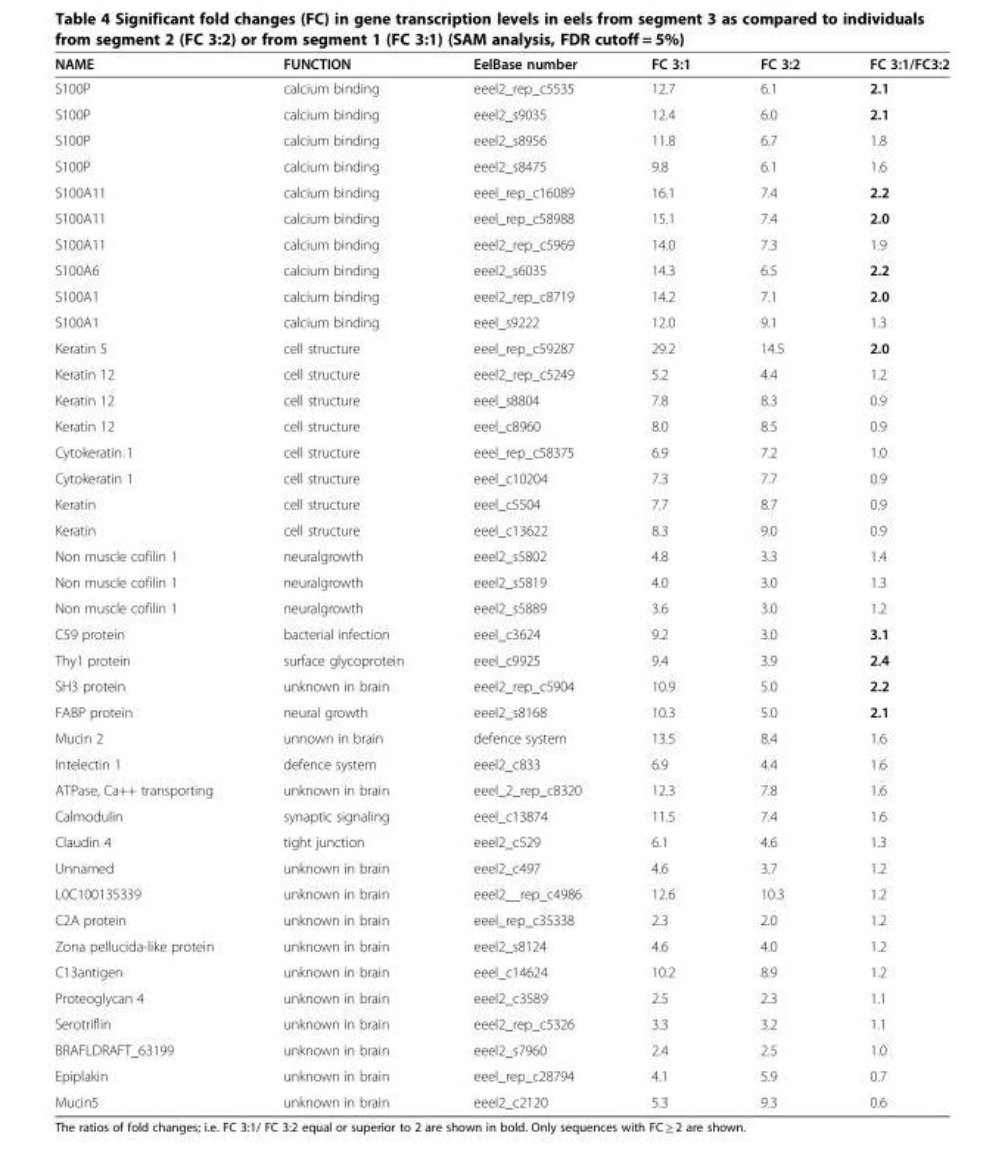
<table><thead><tr><td>NAME</td><td>FUNCTION</td><td>EelBase number</td><td>FC 3:1</td><td>FC 3:2</td><td>FC 3:1/FC3:2</td></tr></thead><tbody><tr><td>S100P</td><td>calcium binding</td><td>eeel2_rep_c5535</td><td>12.7</td><td>6.1</td><td>2.1</td></tr><tr><td>S100P</td><td>calcium binding</td><td>eeel2_s9035</td><td>12.4</td><td>6.0</td><td>2.1</td></tr><tr><td>S100P</td><td>calcium binding</td><td>eeel2_s8956</td><td>11.8</td><td>6.7</td><td>1.8</td></tr><tr><td>S100P</td><td>calcium binding</td><td>eeel2_s8475</td><td>9.8</td><td>6.1</td><td>1.6</td></tr><tr><td>S100A11</td><td>calcium binding</td><td>eeel_rep_c16089</td><td>16.1</td><td>7.4</td><td>2.2</td></tr><tr><td>S100A11</td><td>calcium binding</td><td>eeel_rep_c58988</td><td>15.1</td><td>7.4</td><td>2.0</td></tr><tr><td>S100A11</td><td>calcium binding</td><td>eeel2_rep_c5969</td><td>14.0</td><td>7.3</td><td>1.9</td></tr><tr><td>S100A6</td><td>calcium binding</td><td>eeel2_s6035</td><td>14.3</td><td>6.5</td><td>2.2</td></tr><tr><td>S100A1</td><td>calcium binding</td><td>eeel2_rep_c8719</td><td>14.2</td><td>7.1</td><td>2.0</td></tr><tr><td>S100A1</td><td>calcium binding</td><td>eeel_s9222</td><td>12.0</td><td>9.1</td><td>1.3</td></tr><tr><td>Keratin 5</td><td>cell structure</td><td>eeel_rep_c59287</td><td>29.2</td><td>14.5</td><td>2.0</td></tr><tr><td>Keratin 12</td><td>cell structure</td><td>eeel2_rep_c5249</td><td>5.2</td><td>4.4</td><td>1.2</td></tr><tr><td>Keratin 12</td><td>cell structure</td><td>eeel_s8804</td><td>7.8</td><td>8.3</td><td>0.9</td></tr><tr><td>Keratin 12</td><td>cell structure</td><td>eeel_c8960</td><td>8.0</td><td>8.5</td><td>0.9</td></tr><tr><td>Cytokeratin 1</td><td>cell structure</td><td>eeel_rep_c58375</td><td>6.9</td><td>7.2</td><td>1.0</td></tr><tr><td>Cytokeratin 1</td><td>cell structure</td><td>eeel_c10204</td><td>7.3</td><td>7.7</td><td>0.9</td></tr><tr><td>Keratin</td><td>cell structure</td><td>eeel_c5504</td><td>7.7</td><td>8.7</td><td>0.9</td></tr><tr><td>Keratin</td><td>cell structure</td><td>eeel_c13622</td><td>8.3</td><td>9.0</td><td>0.9</td></tr><tr><td>Non muscle cofilin 1</td><td>neuralgrowth</td><td>eeel2_s5802</td><td>4.8</td><td>3.3</td><td>1.4</td></tr><tr><td>Non muscle cofilin 1</td><td>neuralgrowth</td><td>eeel2_s5819</td><td>4.0</td><td>3.0</td><td>1.3</td></tr><tr><td>Non muscle cofilin 1</td><td>neuralgrowth</td><td>eeel2_s5889</td><td>3.6</td><td>3.0</td><td>1.2</td></tr><tr><td>C59 protein</td><td>bacterial infection</td><td>eeel_c3624</td><td>9.2</td><td>3.0</td><td>3.1</td></tr><tr><td>Thy1 protein</td><td>surface glycoprotein</td><td>eeel_c9925</td><td>9.4</td><td>3.9</td><td>2.4</td></tr><tr><td>SH3 protein</td><td>unknown in brain</td><td>eeel2_rep_c5904</td><td>10.9</td><td>5.0</td><td>2.2</td></tr><tr><td>FABP protein</td><td>neural growth</td><td>eeel2_s8168</td><td>10.3</td><td>5.0</td><td>2.1</td></tr><tr><td>Mucin 2</td><td>unnown in brain</td><td>defence system</td><td>13.5</td><td>8.4</td><td>1.6</td></tr><tr><td>Intelectin 1</td><td>defence system</td><td>eeel2_c833</td><td>6.9</td><td>4.4</td><td>1.6</td></tr><tr><td>ATPase, Ca++ transporting</td><td>unknown in brain</td><td>eeel_2_rep_c8320</td><td>12.3</td><td>7.8</td><td>1.6</td></tr><tr><td>Calmodulin</td><td>synaptic signaling</td><td>eeel_c13874</td><td>11.5</td><td>7.4</td><td>1.6</td></tr><tr><td>Claudin 4</td><td>tight junction</td><td>eeel2_c529</td><td>6.1</td><td>4.6</td><td>1.3</td></tr><tr><td>Unnamed</td><td>unknown in brain</td><td>eeel2_c497</td><td>4.6</td><td>3.7</td><td>1.2</td></tr><tr><td>L0C100135339</td><td>unknown in brain</td><td>eeel2__rep_c4986</td><td>12.6</td><td>10.3</td><td>1.2</td></tr><tr><td>C2A protein</td><td>unknown in brain</td><td>eeel_rep_c35338</td><td>2.3</td><td>2.0</td><td>1.2</td></tr><tr><td>Zona pellucida-like protein</td><td>unknown in brain</td><td>eeel2_s8124</td><td>4.6</td><td>4.0</td><td>1.2</td></tr><tr><td>C13antigen</td><td>unknown in brain</td><td>eeel_c14624</td><td>10.2</td><td>8.9</td><td>1.2</td></tr><tr><td>Proteoglycan 4</td><td>unknown in brain</td><td>eeel2_c3589</td><td>2.5</td><td>2.3</td><td>1.1</td></tr><tr><td>Serotriflin</td><td>unknown in brain</td><td>eeel2_rep_c5326</td><td>3.3</td><td>3.2</td><td>1.1</td></tr><tr><td>BRAFLDRAFT_63199</td><td>unknown in brain</td><td>eeel2_s7960</td><td>2.4</td><td>2.5</td><td>1.0</td></tr><tr><td>Epiplakin</td><td>unknown in brain</td><td>eeel_rep_c28794</td><td>4.1</td><td>5.9</td><td>0.7</td></tr><tr><td>Mucin5</td><td>unknown in brain</td><td>eeel2_c2120</td><td>5.3</td><td>9.3</td><td>0.6</td></tr></tbody></table>